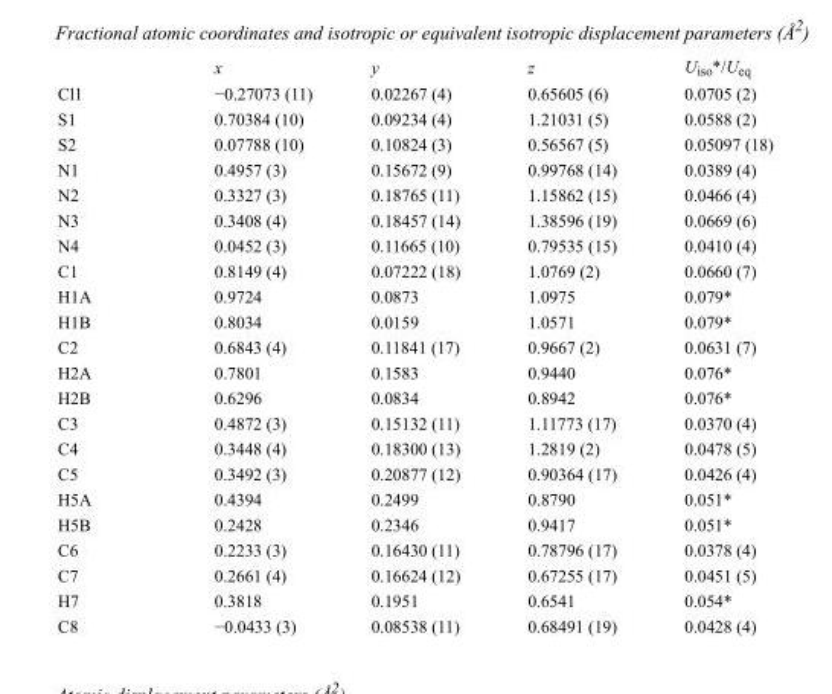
<table><thead><tr><td></td><td>x</td><td>y</td><td>z</td><td>U<sub>iso</sub>*/U<sub>eq</sub></td></tr></thead><tbody><tr><td>Cl1</td><td>−0.27073 (11)</td><td>0.02267 (4)</td><td>0.65605 (6)</td><td>0.0705 (2)</td></tr><tr><td>S1</td><td>0.70384 (10)</td><td>0.09234 (4)</td><td>1.21031 (5)</td><td>0.0588 (2)</td></tr><tr><td>S2</td><td>0.07788 (10)</td><td>0.10824 (3)</td><td>0.56567 (5)</td><td>0.05097 (18)</td></tr><tr><td>N1</td><td>0.4957 (3)</td><td>0.15672 (9)</td><td>0.99768 (14)</td><td>0.0389 (4)</td></tr><tr><td>N2</td><td>0.3327 (3)</td><td>0.18765 (11)</td><td>1.15862 (15)</td><td>0.0466 (4)</td></tr><tr><td>N3</td><td>0.3408 (4)</td><td>0.18457 (14)</td><td>1.38596 (19)</td><td>0.0669 (6)</td></tr><tr><td>N4</td><td>0.0452 (3)</td><td>0.11665 (10)</td><td>0.79535 (15)</td><td>0.0410 (4)</td></tr><tr><td>C1</td><td>0.8149 (4)</td><td>0.07222 (18)</td><td>1.0769 (2)</td><td>0.0660 (7)</td></tr><tr><td>H1A</td><td>0.9724</td><td>0.0873</td><td>1.0975</td><td>0.079*</td></tr><tr><td>H1B</td><td>0.8034</td><td>0.0159</td><td>1.0571</td><td>0.079*</td></tr><tr><td>C2</td><td>0.6843 (4)</td><td>0.11841 (17)</td><td>0.9667 (2)</td><td>0.0631 (7)</td></tr><tr><td>H2A</td><td>0.7801</td><td>0.1583</td><td>0.9440</td><td>0.076*</td></tr><tr><td>H2B</td><td>0.6296</td><td>0.0834</td><td>0.8942</td><td>0.076*</td></tr><tr><td>C3</td><td>0.4872 (3)</td><td>0.15132 (11)</td><td>1.11773 (17)</td><td>0.0370 (4)</td></tr><tr><td>C4</td><td>0.3448 (4)</td><td>0.18300 (13)</td><td>1.2819 (2)</td><td>0.0478 (5)</td></tr><tr><td>C5</td><td>0.3492 (3)</td><td>0.20877 (12)</td><td>0.90364 (17)</td><td>0.0426 (4)</td></tr><tr><td>H5A</td><td>0.4394</td><td>0.2499</td><td>0.8790</td><td>0.051*</td></tr><tr><td>H5B</td><td>0.2428</td><td>0.2346</td><td>0.9417</td><td>0.051*</td></tr><tr><td>C6</td><td>0.2233 (3)</td><td>0.16430 (11)</td><td>0.78796 (17)</td><td>0.0378 (4)</td></tr><tr><td>C7</td><td>0.2661 (4)</td><td>0.16624 (12)</td><td>0.67255 (17)</td><td>0.0451 (5)</td></tr><tr><td>H7</td><td>0.3818</td><td>0.1951</td><td>0.6541</td><td>0.054*</td></tr><tr><td>C8</td><td>−0.0433 (3)</td><td>0.08538 (11)</td><td>0.68491 (19)</td><td>0.0428 (4)</td></tr></tbody></table>